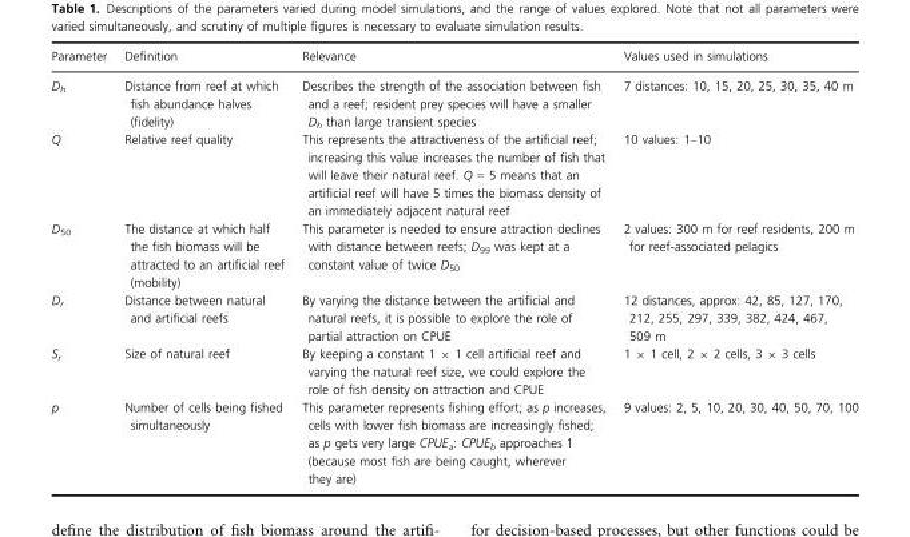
<table><thead><tr><td>Parameter</td><td>Definition</td><td>Relevance</td><td>Values used in simulations</td></tr></thead><tbody><tr><td>D<sub>h</sub></td><td>Distance from reef at which fish abundance halves (fidelity)</td><td>Describes the strength of the association between fish and a reef; resident prey species will have a smaller D<sub>h</sub> than large transient species</td><td>7 distances: 10, 15, 20, 25, 30, 35, 40 m</td></tr><tr><td>Q</td><td>Relative reef quality</td><td>This represents the attractiveness of the artificial reef; increasing this value increases the number of fish that will leave their natural reef. Q = 5 means that an artificial reef will have 5 times the biomass density of an immediately adjacent natural reef</td><td>10 values: 1–10</td></tr><tr><td>D<sub>50</sub></td><td>The distance at which half the fish biomass will be attracted to an artificial reef (mobility)</td><td>This parameter is needed to ensure attraction declines with distance between reefs; D<sub>99</sub> was kept at a constant value of twice D<sub>50</sub></td><td>2 values: 300 m for reef residents, 200 m for reef-associated pelagics</td></tr><tr><td>D<sub>r</sub></td><td>Distance between natural and artificial reefs</td><td>By varying the distance between the artificial and natural reefs, it is possible to explore the role of partial attraction on CPUE</td><td>12 distances, approx: 42, 85, 127, 170, 212, 255, 297, 339, 382, 424, 467, 509 m</td></tr><tr><td>S<sub>r</sub></td><td>Size of natural reef</td><td>By keeping a constant 1 × 1 cell artificial reef and varying the natural reef size, we could explore the role of fish density on attraction and CPUE</td><td>1 × 1 cell, 2 × 2 cells, 3 × 3 cells</td></tr><tr><td>p</td><td>Number of cells being fished simultaneously</td><td>This parameter represents fishing effort; as p increases, cells with lower fish biomass are increasingly fished; as p gets very large CPUE<sub>a</sub>: CPUE<sub>b</sub> approaches 1 (because most fish are being caught, wherever they are)</td><td>9 values: 2, 5, 10, 20, 30, 40, 50, 70, 100</td></tr></tbody></table>